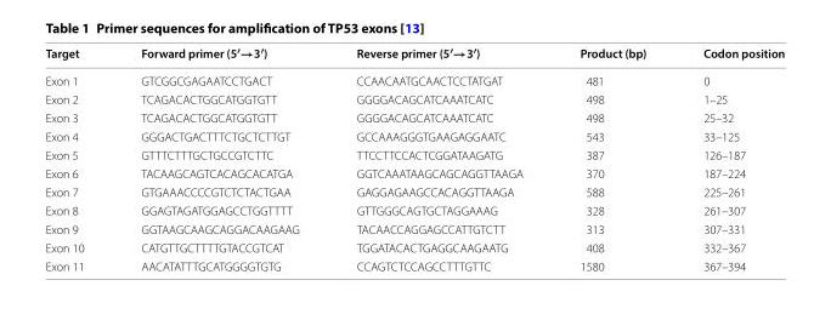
<table><thead><tr><td>Target</td><td>Forward primer (5′→3′)</td><td>Reverse primer (5′→3′)</td><td>Product (bp)</td><td>Codon position</td></tr></thead><tbody><tr><td>Exon 1</td><td>GTC GGC GAG AAT CCT GAC T</td><td>CCA ACA ATG CAA CTC CTA TGAT</td><td>481</td><td>0</td></tr><tr><td>Exon 2</td><td>TCA GAC ACT GGC ATG GTG TT</td><td>GGG GAC AGC ATC AAA TCA TC</td><td>498</td><td>1–25</td></tr><tr><td>Exon 3</td><td>TCA GAC ACT GGC ATG GTG TT</td><td>GGG GAC AGC ATC AAA TCA TC</td><td>498</td><td>25–32</td></tr><tr><td>Exon 4</td><td>GGG ACT GAC TTT CTG CTC TTGT</td><td>GCC AAA GGG TGA AGA GGA ATC</td><td>543</td><td>33–125</td></tr><tr><td>Exon 5</td><td>GTT TCT TTG CTG CCG TCT TC</td><td>TTC CTT CCA CTC GGA TAA GATG</td><td>387</td><td>126–187</td></tr><tr><td>Exon 6</td><td>TAC AAG CAG TCA CAG CAC ATGA</td><td>GGT CAA ATA AGC AGC AGG TTA AGA</td><td>370</td><td>187–224</td></tr><tr><td>Exon 7</td><td>GTG AAA CCC CGT CTC TAC TGAA</td><td>GAG GAG AAG CCA CAG GTT AAGA</td><td>588</td><td>225–261</td></tr><tr><td>Exon 8</td><td>GGA GTA GAT GGA GCC TGG TTTT</td><td>GTT GGG CAG TGC TAG GAA AG</td><td>328</td><td>261–307</td></tr><tr><td>Exon 9</td><td>GGT AAG CAA GCA GGA CAA GAAG</td><td>TAC AAC CAG GAG CCA TTG TCTT</td><td>313</td><td>307–331</td></tr><tr><td>Exon 10</td><td>CAT GTT GCT TTT GTA CCG TCAT</td><td>TGG ATA CAC TGA GGC AAG AATG</td><td>408</td><td>332–367</td></tr><tr><td>Exon 11</td><td>AAC ATA TTT GCA TGG GGT GTG</td><td>CCA GTC TCC AGC CTT TGT TC</td><td>1580</td><td>367–394</td></tr></tbody></table>